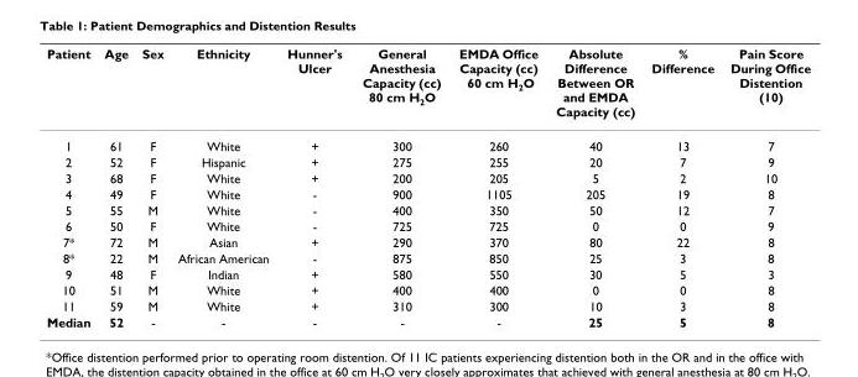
<table><thead><tr><td>Patient</td><td>Age</td><td>Sex</td><td>Ethnicity</td><td>Hunner&#x27;s Ulcer</td><td>General Anesthesia Capacity (cc) 80 cm H<sub>2</sub>O</td><td>EMDA Office Capacity (cc) 60 cm H<sub>2</sub>O</td><td>Absolute Difference Between OR and EMDA Capacity (cc)</td><td>% Difference</td><td>Pain Score During Office Distention (10)</td></tr></thead><tbody><tr><td>1</td><td>61</td><td>F</td><td>White</td><td>+</td><td>300</td><td>260</td><td>40</td><td>13</td><td>7</td></tr><tr><td>2</td><td>52</td><td>F</td><td>Hispanic</td><td>+</td><td>275</td><td>255</td><td>20</td><td>7</td><td>9</td></tr><tr><td>3</td><td>68</td><td>F</td><td>White</td><td>+</td><td>200</td><td>205</td><td>5</td><td>2</td><td>10</td></tr><tr><td>4</td><td>49</td><td>F</td><td>White</td><td>-</td><td>900</td><td>1105</td><td>205</td><td>19</td><td>8</td></tr><tr><td>5</td><td>55</td><td>M</td><td>White</td><td>-</td><td>400</td><td>350</td><td>50</td><td>12</td><td>7</td></tr><tr><td>6</td><td>50</td><td>F</td><td>White</td><td>-</td><td>725</td><td>725</td><td>0</td><td>0</td><td>9</td></tr><tr><td>7*</td><td>72</td><td>M</td><td>Asian</td><td>+</td><td>290</td><td>370</td><td>80</td><td>22</td><td>8</td></tr><tr><td>8*</td><td>22</td><td>M</td><td>African American</td><td>-</td><td>875</td><td>850</td><td>25</td><td>3</td><td>8</td></tr><tr><td>9</td><td>48</td><td>F</td><td>Indian</td><td>+</td><td>580</td><td>550</td><td>30</td><td>5</td><td>3</td></tr><tr><td>10</td><td>51</td><td>M</td><td>White</td><td>+</td><td>400</td><td>400</td><td>0</td><td>0</td><td>8</td></tr><tr><td>11</td><td>59</td><td>M</td><td>White</td><td>+</td><td>310</td><td>300</td><td>10</td><td>3</td><td>8</td></tr><tr><td>Median</td><td>52</td><td>-</td><td>-</td><td>-</td><td>-</td><td>-</td><td>25</td><td>5</td><td>8</td></tr></tbody></table>